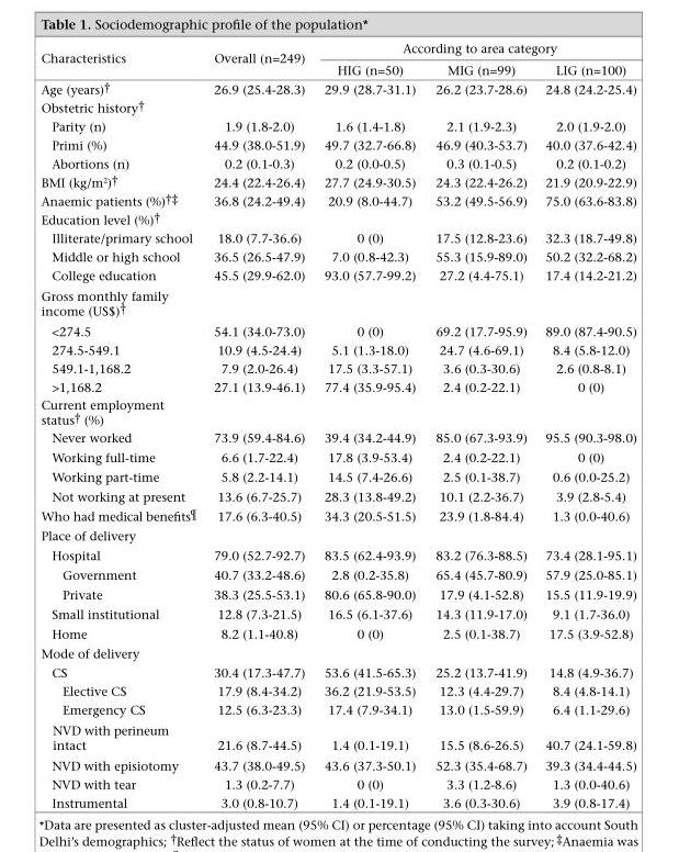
<table><thead><tr><td rowspan="2">Characteristics</td><td rowspan="2">Overall (n=249)</td><td colspan="3">According to area category</td></tr><tr><td>HIG (n=50)</td><td>MIG (n=99)</td><td>LIG (n=100)</td></tr></thead><tbody><tr><td>Age (years)†</td><td>26.9 (25.4-28.3)</td><td>29.9 (28.7-31.1)</td><td>26.2 (23.7-28.6)</td><td>24.8 (24.2-25.4)</td></tr><tr><td colspan="5">Obstetric history†</td></tr><tr><td>Parity (n)</td><td>1.9 (1.8-2.0)</td><td>1.6 (1.4-1.8)</td><td>2.1 (1.9-2.3)</td><td>2.0 (1.9-2.0)</td></tr><tr><td>Primi (%)</td><td>44.9 (38.0-51.9)</td><td>49.7 (32.7-66.8)</td><td>46.9 (40.3-53.7)</td><td>40.0 (37.6-42.4)</td></tr><tr><td>Abortions (n)</td><td>0.2 (0.1-0.3)</td><td>0.2 (0.0-0.5)</td><td>0.3 (0.1-0.5)</td><td>0.2 (0.1-0.2)</td></tr><tr><td>BMI (kg/m<sup>2</sup>)†</td><td>24.4 (22.4-26.4)</td><td>27.7 (24.9-30.5)</td><td>24.3 (22.4-26.2)</td><td>21.9 (20.9-22.9)</td></tr><tr><td>Anaemic patients (%)†‡</td><td>36.8 (24.2-49.4)</td><td>20.9 (8.0-44.7)</td><td>53.2 (49.5-56.9)</td><td>75.0 (63.6-83.8)</td></tr><tr><td colspan="5">Education level (%)†</td></tr><tr><td>Illiterate/primary school</td><td>18.0 (7.7-36.6)</td><td>0 (0)</td><td>17.5 (12.8-23.6)</td><td>32.3 (18.7-49.8)</td></tr><tr><td>Middle or high school</td><td>36.5 (26.5-47.9)</td><td>7.0 (0.8-42.3)</td><td>55.3 (15.9-89.0)</td><td>50.2 (32.2-68.2)</td></tr><tr><td>College education</td><td>45.5 (29.9-62.0)</td><td>93.0 (57.7-99.2)</td><td>27.2 (4.4-75.1)</td><td>17.4 (14.2-21.2)</td></tr><tr><td colspan="5">Gross monthly family income (US$)†</td></tr><tr><td>&lt;274.5</td><td>54.1 (34.0-73.0)</td><td>0 (0)</td><td>69.2 (17.7-95.9)</td><td>89.0 (87.4-90.5)</td></tr><tr><td>274.5-549.1</td><td>10.9 (4.5-24.4)</td><td>5.1 (1.3-18.0)</td><td>24.7 (4.6-69.1)</td><td>8.4 (5.8-12.0)</td></tr><tr><td>549.1-1,168.2</td><td>7.9 (2.0-26.4)</td><td>17.5 (3.3-57.1)</td><td>3.6 (0.3-30.6)</td><td>2.6 (0.8-8.1)</td></tr><tr><td>&gt;1,168.2</td><td>27.1 (13.9-46.1)</td><td>77.4 (35.9-95.4)</td><td>2.4 (0.2-22.1)</td><td>0 (0)</td></tr><tr><td colspan="5">Current employment status† (%)</td></tr><tr><td>Never worked</td><td>73.9 (59.4-84.6)</td><td>39.4 (34.2-44.9)</td><td>85.0 (67.3-93.9)</td><td>95.5 (90.3-98.0)</td></tr><tr><td>Working full-time</td><td>6.6 (1.7-22.4)</td><td>17.8 (3.9-53.4)</td><td>2.4 (0.2-22.1)</td><td>0 (0)</td></tr><tr><td>Working part-time</td><td>5.8 (2.2-14.1)</td><td>14.5 (7.4-26.6)</td><td>2.5 (0.1-38.7)</td><td>0.6 (0.0-25.2)</td></tr><tr><td>Not working at present</td><td>13.6 (6.7-25.7)</td><td>28.3 (13.8-49.2)</td><td>10.1 (2.2-36.7)</td><td>3.9 (2.8-5.4)</td></tr><tr><td>Who had medical benefits¶</td><td>17.6 (6.3-40.5)</td><td>34.3 (20.5-51.5)</td><td>23.9 (1.8-84.4)</td><td>1.3 (0.0-40.6)</td></tr><tr><td colspan="5">Place of delivery</td></tr><tr><td>Hospital</td><td>79.0 (52.7-92.7)</td><td>83.5 (62.4-93.9)</td><td>83.2 (76.3-88.5)</td><td>73.4 (28.1-95.1)</td></tr><tr><td>Government</td><td>40.7 (33.2-48.6)</td><td>2.8 (0.2-35.8)</td><td>65.4 (45.7-80.9)</td><td>57.9 (25.0-85.1)</td></tr><tr><td>Private</td><td>38.3 (25.5-53.1)</td><td>80.6 (65.8-90.0)</td><td>17.9 (4.1-52.8)</td><td>15.5 (11.9-19.9)</td></tr><tr><td>Small institutional</td><td>12.8 (7.3-21.5)</td><td>16.5 (6.1-37.6)</td><td>14.3 (11.9-17.0)</td><td>9.1 (1.7-36.0)</td></tr><tr><td>Home</td><td>8.2 (1.1-40.8)</td><td>0 (0)</td><td>2.5 (0.1-38.7)</td><td>17.5 (3.9-52.8)</td></tr><tr><td colspan="5">Mode of delivery</td></tr><tr><td>CS</td><td>30.4 (17.3-47.7)</td><td>53.6 (41.5-65.3)</td><td>25.2 (13.7-41.9)</td><td>14.8 (4.9-36.7)</td></tr><tr><td>Elective CS</td><td>17.9 (8.4-34.2)</td><td>36.2 (21.9-53.5)</td><td>12.3 (4.4-29.7)</td><td>8.4 (4.8-14.1)</td></tr><tr><td>Emergency CS</td><td>12.5 (6.3-23.3)</td><td>17.4 (7.9-34.1)</td><td>13.0 (1.5-59.9)</td><td>6.4 (1.1-29.6)</td></tr><tr><td>NVD with perineum intact</td><td>21.6 (8.7-44.5)</td><td>1.4 (0.1-19.1)</td><td>15.5 (8.6-26.5)</td><td>40.7 (24.1-59.8)</td></tr><tr><td>NVD with episiotomy</td><td>43.7 (38.0-49.5)</td><td>43.6 (37.3-50.1)</td><td>52.3 (35.4-68.7)</td><td>39.3 (34.4-44.5)</td></tr><tr><td>NVD with tear</td><td>1.3 (0.2-7.7)</td><td>0 (0)</td><td>3.3 (1.2-8.6)</td><td>1.3 (0.0-40.6)</td></tr><tr><td>Instrumental</td><td>3.0 (0.8-10.7)</td><td>1.4 (0.1-19.1)</td><td>3.6 (0.3-30.6)</td><td>3.9 (0.8-17.4)</td></tr></tbody></table>